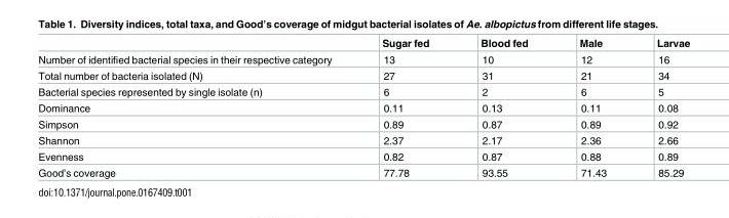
<table><thead><tr><td></td><td>Sugar fed</td><td>Blood fed</td><td>Male</td><td>Larvae</td></tr></thead><tbody><tr><td>Number of identified bacterial species in their respective category</td><td>13</td><td>10</td><td>12</td><td>16</td></tr><tr><td>Total number of bacteria isolated (N)</td><td>27</td><td>31</td><td>21</td><td>34</td></tr><tr><td>Bacterial species represented by single isolate (n)</td><td>6</td><td>2</td><td>6</td><td>5</td></tr><tr><td>Dominance</td><td>0.11</td><td>0.13</td><td>0.11</td><td>0.08</td></tr><tr><td>Simpson</td><td>0.89</td><td>0.87</td><td>0.89</td><td>0.92</td></tr><tr><td>Shannon</td><td>2.37</td><td>2.17</td><td>2.36</td><td>2.66</td></tr><tr><td>Evenness</td><td>0.82</td><td>0.87</td><td>0.88</td><td>0.89</td></tr><tr><td>Good’s coverage</td><td>77.78</td><td>93.55</td><td>71.43</td><td>85.29</td></tr></tbody></table>